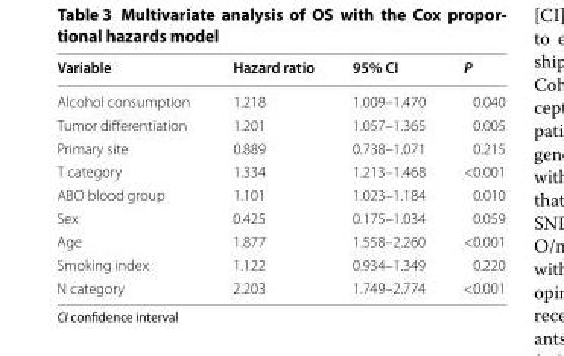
<table><thead><tr><td>Variable</td><td>Hazard ratio</td><td>95% CI</td><td>P</td></tr></thead><tbody><tr><td>Alcohol consumption</td><td>1.218</td><td>1.009–1.470</td><td>0.040</td></tr><tr><td>Tumor differentiation</td><td>1.201</td><td>1.057–1.365</td><td>0.005</td></tr><tr><td>Primary site</td><td>0.889</td><td>0.738–1.071</td><td>0.215</td></tr><tr><td>T category</td><td>1.334</td><td>1.213–1.468</td><td>&lt;0.001</td></tr><tr><td>ABO blood group</td><td>1.101</td><td>1.023–1.184</td><td>0.010</td></tr><tr><td>Sex</td><td>0.425</td><td>0.175–1.034</td><td>0.059</td></tr><tr><td>Age</td><td>1.877</td><td>1.558–2.260</td><td>&lt;0.001</td></tr><tr><td>Smoking index</td><td>1.122</td><td>0.934–1.349</td><td>0.220</td></tr><tr><td>N category</td><td>2.203</td><td>1.749–2.774</td><td>&lt;0.001</td></tr></tbody></table>